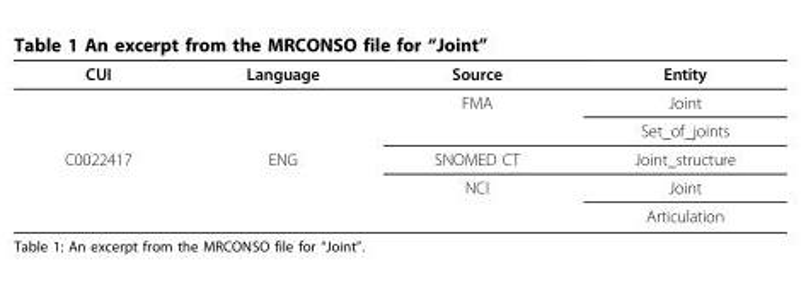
<table><thead><tr><td>CUI</td><td>Language</td><td>Source</td><td>Entity</td></tr></thead><tbody><tr><td></td><td></td><td>FMA</td><td>Joint</td></tr><tr><td></td><td></td><td></td><td>Set_of_joints</td></tr><tr><td rowspan="3">C0022417</td><td>ENG</td><td>SNOMED CT</td><td>Joint_structure</td></tr><tr><td></td><td>NCI</td><td>Joint</td></tr><tr><td></td><td></td><td>Articulation</td></tr></tbody></table>